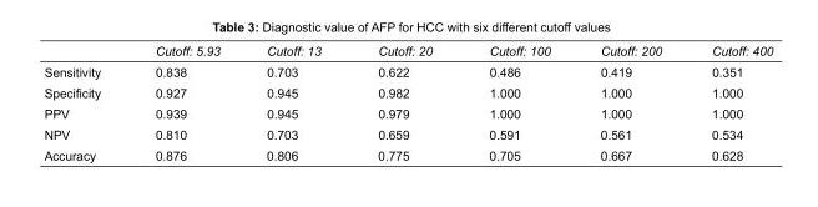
<table><thead><tr><td></td><td>Cutoff: 5.93</td><td>Cutoff: 13</td><td>Cutoff: 20</td><td>Cutoff: 100</td><td>Cutoff: 200</td><td>Cutoff: 400</td></tr></thead><tbody><tr><td>Sensitivity</td><td>0.838</td><td>0.703</td><td>0.622</td><td>0.486</td><td>0.419</td><td>0.351</td></tr><tr><td>Specificity</td><td>0.927</td><td>0.945</td><td>0.982</td><td>1.000</td><td>1.000</td><td>1.000</td></tr><tr><td>PPV</td><td>0.939</td><td>0.945</td><td>0.979</td><td>1.000</td><td>1.000</td><td>1.000</td></tr><tr><td>NPV</td><td>0.810</td><td>0.703</td><td>0.659</td><td>0.591</td><td>0.561</td><td>0.534</td></tr><tr><td>Accuracy</td><td>0.876</td><td>0.806</td><td>0.775</td><td>0.705</td><td>0.667</td><td>0.628</td></tr></tbody></table>